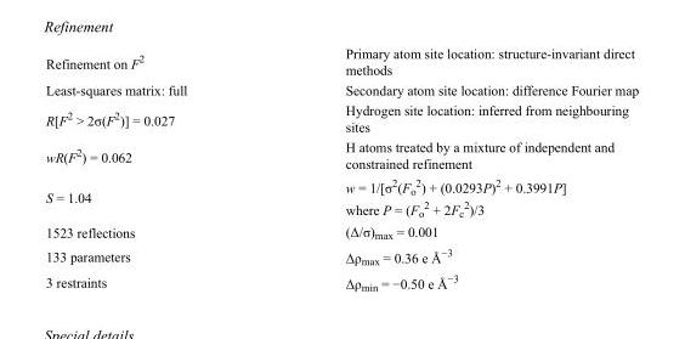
<table><tbody><tr><td>Refinement on F<sup>2</sup></td><td>Primary atom site location: structure-invariant direct methods</td></tr><tr><td>Least-squares matrix: full</td><td>Secondary atom site location: difference Fourier map</td></tr><tr><td>R[F<sup>2</sup> &gt; 2σ(F<sup>2</sup>)] = 0.027</td><td>Hydrogen site location: inferred from neighbouring sites</td></tr><tr><td>wR(F<sup>2</sup>) = 0.062</td><td>H atoms treated by a mixture of independent and constrained refinement</td></tr><tr><td>S = 1.04</td><td>w = 1/[σ<sup>2</sup>(F<sub>o</sub> <sup>2</sup>) + (0.0293P)<sup>2</sup> + 0.3991P] where P = (F<sub>o</sub> <sup>2</sup> + 2F<sub>c</sub> <sup>2</sup>)/3</td></tr><tr><td>1523 reflections</td><td>(Δ/σ)<sub>max</sub> = 0.001</td></tr><tr><td>133 parameters</td><td>Δρ<sub>max</sub> = 0.36 e Å<sup>−3</sup></td></tr><tr><td>3 restraints</td><td>Δρ<sub>min</sub> = −0.50 e Å<sup>−3</sup></td></tr></tbody></table>